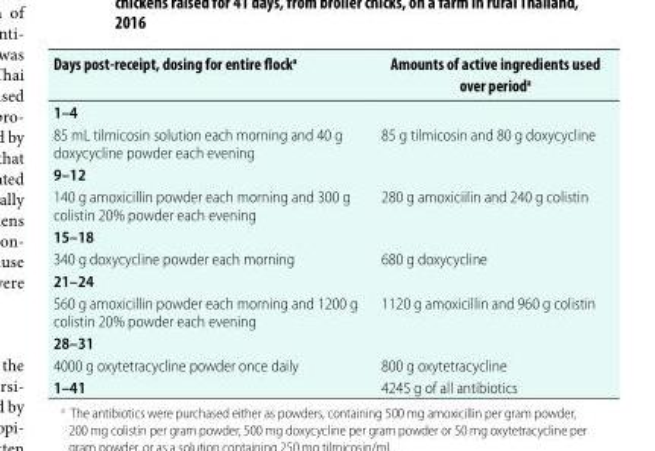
<table><thead><tr><td>Days post-receipt, dosing for entire flock<sup>a</sup></td><td>Amounts of active ingredients used over period<sup>a</sup></td></tr></thead><tbody><tr><td colspan="2">1–4</td></tr><tr><td>85 mL tilmicosin solution each morning and 40 g doxycycline powder each evening</td><td>85 g tilmicosin and 80 g doxycycline</td></tr><tr><td colspan="2">9–12</td></tr><tr><td>140 g amoxicillin powder each morning and 300 g colistin 20% powder each evening</td><td>280 g amoxiciilin and 240 g colistin</td></tr><tr><td colspan="2">15–18</td></tr><tr><td>340 g doxycycline powder each morning</td><td>680 g doxycycline</td></tr><tr><td colspan="2">21–24</td></tr><tr><td>560 g amoxicillin powder each morning and 1200 g colistin 20% powder each evening</td><td>1120 g amoxicillin and 960 g colistin</td></tr><tr><td colspan="2">28–31</td></tr><tr><td>4000 g oxytetracycline powder once daily</td><td>800 g oxytetracycline</td></tr><tr><td>1–41</td><td>4245 g of all antibiotics</td></tr></tbody></table>